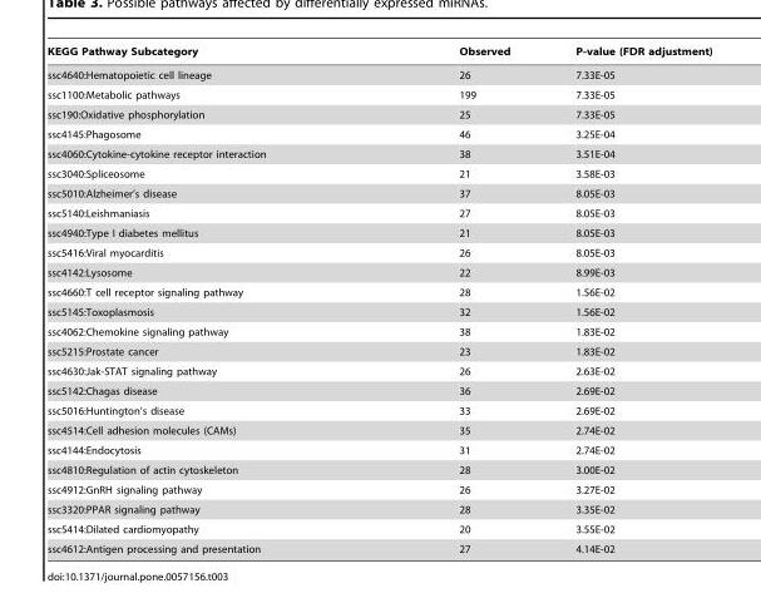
<table><thead><tr><td>KEGG Pathway Subcategory</td><td>Observed</td><td>P-value (FDR adjustment)</td></tr></thead><tbody><tr><td>ssc4640:Hematopoietic cell lineage</td><td>26</td><td>7.33E-05</td></tr><tr><td>ssc1100:Metabolic pathways</td><td>199</td><td>7.33E-05</td></tr><tr><td>ssc190:Oxidative phosphorylation</td><td>25</td><td>7.33E-05</td></tr><tr><td>ssc4145:Phagosome</td><td>46</td><td>3.25E-04</td></tr><tr><td>ssc4060:Cytokine-cytokine receptor interaction</td><td>38</td><td>3.51E-04</td></tr><tr><td>ssc3040:Spliceosome</td><td>21</td><td>3.58E-03</td></tr><tr><td>ssc5010:Alzheimer’s disease</td><td>37</td><td>8.05E-03</td></tr><tr><td>ssc5140:Leishmaniasis</td><td>27</td><td>8.05E-03</td></tr><tr><td>ssc4940:Type I diabetes mellitus</td><td>21</td><td>8.05E-03</td></tr><tr><td>ssc5416:Viral myocarditis</td><td>26</td><td>8.05E-03</td></tr><tr><td>ssc4142:Lysosome</td><td>22</td><td>8.99E-03</td></tr><tr><td>ssc4660:T cell receptor signaling pathway</td><td>28</td><td>1.56E-02</td></tr><tr><td>ssc5145:Toxoplasmosis</td><td>32</td><td>1.56E-02</td></tr><tr><td>ssc4062:Chemokine signaling pathway</td><td>38</td><td>1.83E-02</td></tr><tr><td>ssc5215:Prostate cancer</td><td>23</td><td>1.83E-02</td></tr><tr><td>ssc4630:Jak-STAT signaling pathway</td><td>26</td><td>2.63E-02</td></tr><tr><td>ssc5142:Chagas disease</td><td>36</td><td>2.69E-02</td></tr><tr><td>ssc5016:Huntington’s disease</td><td>33</td><td>2.69E-02</td></tr><tr><td>ssc4514:Cell adhesion molecules (CAMs)</td><td>35</td><td>2.74E-02</td></tr><tr><td>ssc4144:Endocytosis</td><td>31</td><td>2.74E-02</td></tr><tr><td>ssc4810:Regulation of actin cytoskeleton</td><td>28</td><td>3.00E-02</td></tr><tr><td>ssc4912:GnRH signaling pathway</td><td>26</td><td>3.27E-02</td></tr><tr><td>ssc3320:PPAR signaling pathway</td><td>28</td><td>3.35E-02</td></tr><tr><td>ssc5414:Dilated cardiomyopathy</td><td>20</td><td>3.55E-02</td></tr><tr><td>ssc4612:Antigen processing and presentation</td><td>27</td><td>4.14E-02</td></tr></tbody></table>